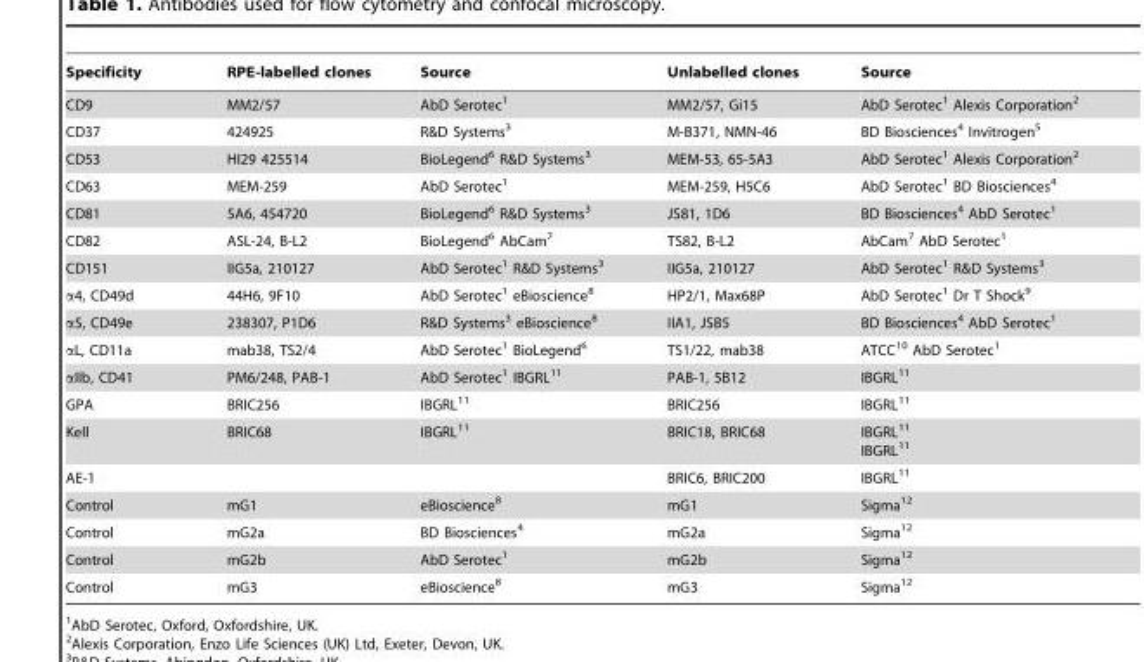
<table><thead><tr><td>Specificity</td><td>RPE-labelled clones</td><td>Source</td><td>Unlabelled clones</td><td>Source</td></tr></thead><tbody><tr><td>CD9</td><td>MM2/57</td><td>AbD Serotec<sup>1</sup></td><td>MM2/57, Gi15</td><td>AbD Serotec<sup>1</sup> Alexis Corporation<sup>2</sup></td></tr><tr><td>CD37</td><td>424925</td><td>R&amp;D Systems<sup>3</sup></td><td>M-B371, NMN-46</td><td>BD Biosciences<sup>4</sup> Invitrogen<sup>5</sup></td></tr><tr><td>CD53</td><td>HI29 425514</td><td>BioLegend<sup>6</sup> R&amp;D Systems<sup>3</sup></td><td>MEM-53, 65-5A3</td><td>AbD Serotec<sup>1</sup> Alexis Corporation<sup>2</sup></td></tr><tr><td>CD63</td><td>MEM-259</td><td>AbD Serotec<sup>1</sup></td><td>MEM-259, H5C6</td><td>AbD Serotec<sup>1</sup> BD Biosciences<sup>4</sup></td></tr><tr><td>CD81</td><td>5A6, 454720</td><td>BioLegend<sup>6</sup> R&amp;D Systems<sup>3</sup></td><td>JS81, 1D6</td><td>BD Biosciences<sup>4</sup> AbD Serotec<sup>1</sup></td></tr><tr><td>CD82</td><td>ASL-24, B-L2</td><td>BioLegend<sup>6</sup> AbCam<sup>7</sup></td><td>TS82, B-L2</td><td>AbCam<sup>7</sup> AbD Serotec<sup>1</sup></td></tr><tr><td>CD151</td><td>IIG5a, 210127</td><td>AbD Serotec<sup>1</sup> R&amp;D Systems<sup>3</sup></td><td>IIG5a, 210127</td><td>AbD Serotec<sup>1</sup> R&amp;D Systems<sup>3</sup></td></tr><tr><td>α4, CD49d</td><td>44H6, 9F10</td><td>AbD Serotec<sup>1</sup> eBioscience<sup>8</sup></td><td>HP2/1, Max68P</td><td>AbD Serotec<sup>1</sup> Dr T Shock<sup>9</sup></td></tr><tr><td>α5, CD49e</td><td>238307, P1D6</td><td>R&amp;D Systems<sup>3</sup> eBioscience<sup>8</sup></td><td>IIA1, JSB5</td><td>BD Biosciences<sup>4</sup> AbD Serotec<sup>1</sup></td></tr><tr><td>αL, CD11a</td><td>mab38, TS2/4</td><td>AbD Serotec<sup>1</sup> BioLegend<sup>6</sup></td><td>TS1/22, mab38</td><td>ATCC<sup>10</sup> AbD Serotec<sup>1</sup></td></tr><tr><td>αIIb, CD41</td><td>PM6/248, PAB-1</td><td>AbD Serotec<sup>1</sup> IBGRL<sup>11</sup></td><td>PAB-1, 5B12</td><td>IBGRL<sup>11</sup></td></tr><tr><td>GPA</td><td>BRIC256</td><td>IBGRL<sup>11</sup></td><td>BRIC256</td><td>IBGRL<sup>11</sup></td></tr><tr><td>Kell</td><td>BRIC68</td><td>IBGRL<sup>11</sup></td><td>BRIC18, BRIC68</td><td>IBGRL<sup>11</sup> IBGRL<sup>11</sup></td></tr><tr><td>AE-1</td><td></td><td></td><td>BRIC6, BRIC200</td><td>IBGRL<sup>11</sup></td></tr><tr><td>Control</td><td>mG1</td><td>eBioscience<sup>8</sup></td><td>mG1</td><td>Sigma<sup>12</sup></td></tr><tr><td>Control</td><td>mG2a</td><td>BD Biosciences<sup>4</sup></td><td>mG2a</td><td>Sigma<sup>12</sup></td></tr><tr><td>Control</td><td>mG2b</td><td>AbD Serotec<sup>1</sup></td><td>mG2b</td><td>Sigma<sup>12</sup></td></tr><tr><td>Control</td><td>mG3</td><td>eBioscience<sup>8</sup></td><td>mG3</td><td>Sigma<sup>12</sup></td></tr></tbody></table>